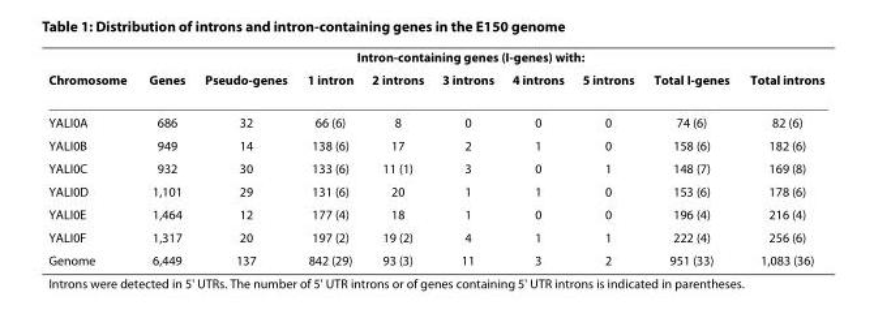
<table><thead><tr><td rowspan="2">Chromosome</td><td rowspan="2">Genes</td><td rowspan="2">Pseudo-genes</td><td colspan="5">Intron-containing genes (I-genes) with:</td><td rowspan="2">Total I-genes</td><td rowspan="2">Total introns</td></tr><tr><td>1 intron</td><td>2 introns</td><td>3 introns</td><td>4 introns</td><td>5 introns</td></tr></thead><tbody><tr><td>YALI0A</td><td>686</td><td>32</td><td>66 (6)</td><td>8</td><td>0</td><td>0</td><td>0</td><td>74 (6)</td><td>82 (6)</td></tr><tr><td>YALI0B</td><td>949</td><td>14</td><td>138 (6)</td><td>17</td><td>2</td><td>1</td><td>0</td><td>158 (6)</td><td>182 (6)</td></tr><tr><td>YALI0C</td><td>932</td><td>30</td><td>133 (6)</td><td>11 (1)</td><td>3</td><td>0</td><td>1</td><td>148 (7)</td><td>169 (8)</td></tr><tr><td>YALI0D</td><td>1,101</td><td>29</td><td>131 (6)</td><td>20</td><td>1</td><td>1</td><td>0</td><td>153 (6)</td><td>178 (6)</td></tr><tr><td>YALI0E</td><td>1,464</td><td>12</td><td>177 (4)</td><td>18</td><td>1</td><td>0</td><td>0</td><td>196 (4)</td><td>216 (4)</td></tr><tr><td>YALI0F</td><td>1,317</td><td>20</td><td>197 (2)</td><td>19 (2)</td><td>4</td><td>1</td><td>1</td><td>222 (4)</td><td>256 (6)</td></tr><tr><td>Genome</td><td>6,449</td><td>137</td><td>842 (29)</td><td>93 (3)</td><td>11</td><td>3</td><td>2</td><td>951 (33)</td><td>1,083 (36)</td></tr></tbody></table>